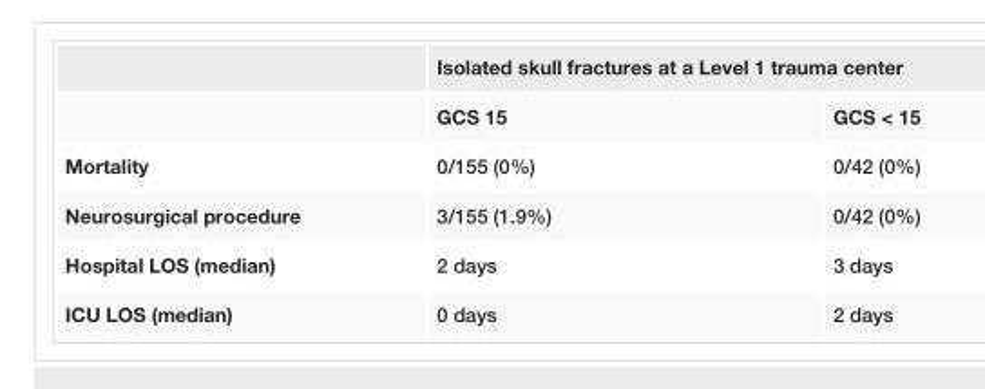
<table><thead><tr><td rowspan="2"></td><td colspan="2">Isolated skull fractures at a Level 1 trauma center</td></tr><tr><td>GCS 15</td><td>GCS &lt; 15</td></tr></thead><tbody><tr><td>Mortality</td><td>0/155 (0%)</td><td>0/42 (0%)</td></tr><tr><td>Neurosurgical procedure</td><td>3/155 (1.9%)</td><td>0/42 (0%)</td></tr><tr><td>Hospital LOS (median)</td><td>2 days</td><td>3 days</td></tr><tr><td>ICU LOS (median)</td><td>0 days</td><td>2 days</td></tr></tbody></table>